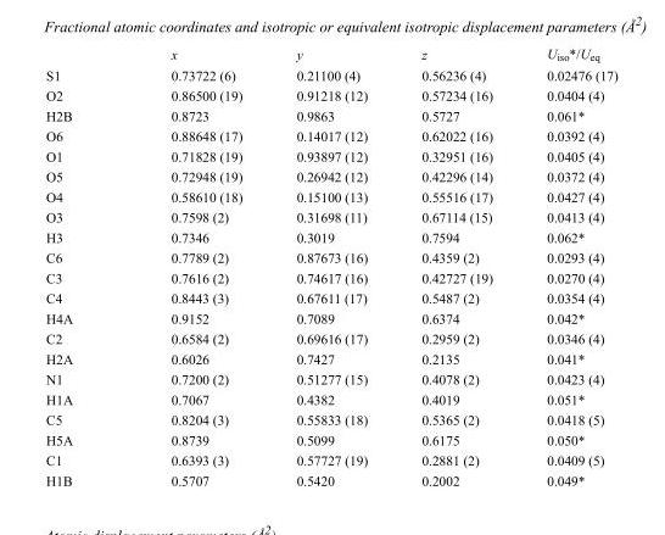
<table><thead><tr><td></td><td>x</td><td>y</td><td>z</td><td>U<sub>iso</sub>*/U<sub>eq</sub></td></tr></thead><tbody><tr><td>S1</td><td>0.73722 (6)</td><td>0.21100 (4)</td><td>0.56236 (4)</td><td>0.02476 (17)</td></tr><tr><td>O2</td><td>0.86500 (19)</td><td>0.91218 (12)</td><td>0.57234 (16)</td><td>0.0404 (4)</td></tr><tr><td>H2B</td><td>0.8723</td><td>0.9863</td><td>0.5727</td><td>0.061*</td></tr><tr><td>O6</td><td>0.88648 (17)</td><td>0.14017 (12)</td><td>0.62022 (16)</td><td>0.0392 (4)</td></tr><tr><td>O1</td><td>0.71828 (19)</td><td>0.93897 (12)</td><td>0.32951 (16)</td><td>0.0405 (4)</td></tr><tr><td>O5</td><td>0.72948 (19)</td><td>0.26942 (12)</td><td>0.42296 (14)</td><td>0.0372 (4)</td></tr><tr><td>O4</td><td>0.58610 (18)</td><td>0.15100 (13)</td><td>0.55516 (17)</td><td>0.0427 (4)</td></tr><tr><td>O3</td><td>0.7598 (2)</td><td>0.31698 (11)</td><td>0.67114 (15)</td><td>0.0413 (4)</td></tr><tr><td>H3</td><td>0.7346</td><td>0.3019</td><td>0.7594</td><td>0.062*</td></tr><tr><td>C6</td><td>0.7789 (2)</td><td>0.87673 (16)</td><td>0.4359 (2)</td><td>0.0293 (4)</td></tr><tr><td>C3</td><td>0.7616 (2)</td><td>0.74617 (16)</td><td>0.42727 (19)</td><td>0.0270 (4)</td></tr><tr><td>C4</td><td>0.8443 (3)</td><td>0.67611 (17)</td><td>0.5487 (2)</td><td>0.0354 (4)</td></tr><tr><td>H4A</td><td>0.9152</td><td>0.7089</td><td>0.6374</td><td>0.042*</td></tr><tr><td>C2</td><td>0.6584 (2)</td><td>0.69616 (17)</td><td>0.2959 (2)</td><td>0.0346 (4)</td></tr><tr><td>H2A</td><td>0.6026</td><td>0.7427</td><td>0.2135</td><td>0.041*</td></tr><tr><td>N1</td><td>0.7200 (2)</td><td>0.51277 (15)</td><td>0.4078 (2)</td><td>0.0423 (4)</td></tr><tr><td>H1A</td><td>0.7067</td><td>0.4382</td><td>0.4019</td><td>0.051*</td></tr><tr><td>C5</td><td>0.8204 (3)</td><td>0.55833 (18)</td><td>0.5365 (2)</td><td>0.0418 (5)</td></tr><tr><td>H5A</td><td>0.8739</td><td>0.5099</td><td>0.6175</td><td>0.050*</td></tr><tr><td>C1</td><td>0.6393 (3)</td><td>0.57727 (19)</td><td>0.2881 (2)</td><td>0.0409 (5)</td></tr><tr><td>H1B</td><td>0.5707</td><td>0.5420</td><td>0.2002</td><td>0.049*</td></tr></tbody></table>